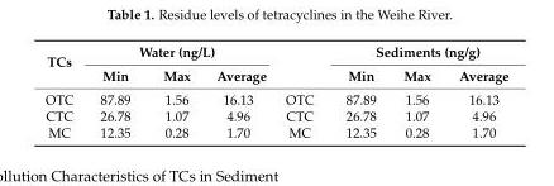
<table><thead><tr><td rowspan="2">TCs</td><td colspan="3">Water (ng/L)</td><td rowspan="2"></td><td colspan="3">Sediments (ng/g)</td></tr><tr><td>Min</td><td>Max</td><td>Average</td><td>Min</td><td>Max</td><td>Average</td></tr></thead><tbody><tr><td>OTC</td><td>87.89</td><td>1.56</td><td>16.13</td><td>OTC</td><td>87.89</td><td>1.56</td><td>16.13</td></tr><tr><td>CTC</td><td>26.78</td><td>1.07</td><td>4.96</td><td>CTC</td><td>26.78</td><td>1.07</td><td>4.96</td></tr><tr><td>MC</td><td>12.35</td><td>0.28</td><td>1.70</td><td>MC</td><td>12.35</td><td>0.28</td><td>1.70</td></tr></tbody></table>